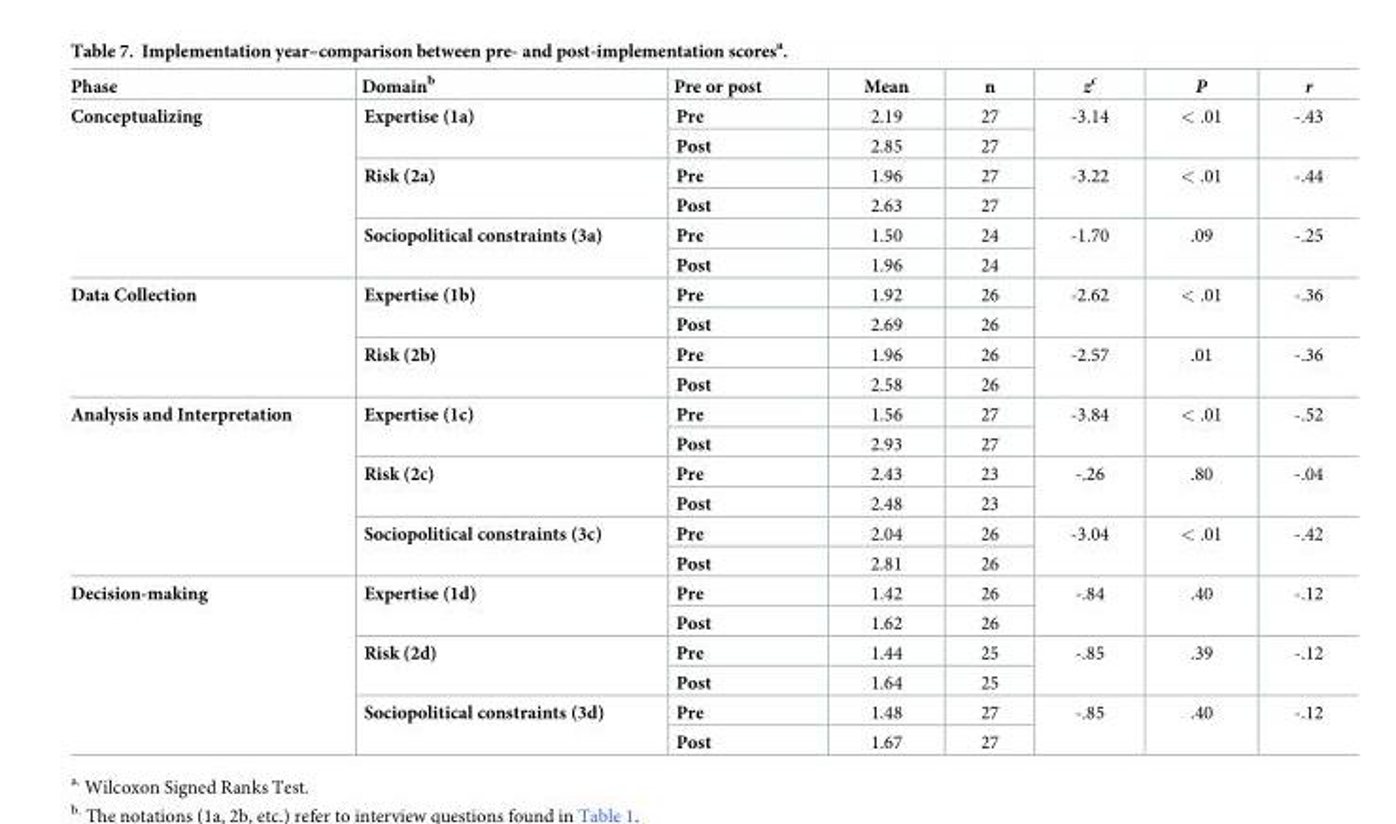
<table><thead><tr><td>Phase</td><td>Domain<sup>b</sup></td><td>Pre or post</td><td>Mean</td><td>n</td><td>z<sup>c</sup></td><td>P</td><td>r</td></tr></thead><tbody><tr><td rowspan="6">Conceptualizing</td><td rowspan="2">Expertise (1a)</td><td>Pre</td><td>2.19</td><td>27</td><td rowspan="2">-3.14</td><td rowspan="2">&lt; .01</td><td rowspan="2">-.43</td></tr><tr><td>Post</td><td>2.85</td><td>27</td></tr><tr><td rowspan="2">Risk (2a)</td><td>Pre</td><td>1.96</td><td>27</td><td rowspan="2">-3.22</td><td rowspan="2">&lt; .01</td><td rowspan="2">-.44</td></tr><tr><td>Post</td><td>2.63</td><td>27</td></tr><tr><td rowspan="2">Sociopolitical constraints (3a)</td><td>Pre</td><td>1.50</td><td>24</td><td rowspan="2">-1.70</td><td rowspan="2">.09</td><td rowspan="2">-.25</td></tr><tr><td>Post</td><td>1.96</td><td>24</td></tr><tr><td rowspan="4">Data Collection</td><td rowspan="2">Expertise (1b)</td><td>Pre</td><td>1.92</td><td>26</td><td rowspan="2">-2.62</td><td rowspan="2">&lt; .01</td><td rowspan="2">-.36</td></tr><tr><td>Post</td><td>2.69</td><td>26</td></tr><tr><td rowspan="2">Risk (2b)</td><td>Pre</td><td>1.96</td><td>26</td><td rowspan="2">-2.57</td><td rowspan="2">.01</td><td rowspan="2">-.36</td></tr><tr><td>Post</td><td>2.58</td><td>26</td></tr><tr><td rowspan="6">Analysis and Interpretation</td><td rowspan="2">Expertise (1c)</td><td>Pre</td><td>1.56</td><td>27</td><td rowspan="2">-3.84</td><td rowspan="2">&lt; .01</td><td rowspan="2">-.52</td></tr><tr><td>Post</td><td>2.93</td><td>27</td></tr><tr><td rowspan="2">Risk (2c)</td><td>Pre</td><td>2.43</td><td>23</td><td rowspan="2">-.26</td><td rowspan="2">.80</td><td rowspan="2">-.04</td></tr><tr><td>Post</td><td>2.48</td><td>23</td></tr><tr><td rowspan="2">Sociopolitical constraints (3c)</td><td>Pre</td><td>2.04</td><td>26</td><td rowspan="2">-3.04</td><td rowspan="2">&lt; .01</td><td rowspan="2">-.42</td></tr><tr><td>Post</td><td>2.81</td><td>26</td></tr><tr><td rowspan="6">Decision-making</td><td rowspan="2">Expertise (1d)</td><td>Pre</td><td>1.42</td><td>26</td><td rowspan="2">-.84</td><td rowspan="2">.40</td><td rowspan="2">-.12</td></tr><tr><td>Post</td><td>1.62</td><td>26</td></tr><tr><td rowspan="2">Risk (2d)</td><td>Pre</td><td>1.44</td><td>25</td><td rowspan="2">-.85</td><td rowspan="2">.39</td><td rowspan="2">-.12</td></tr><tr><td>Post</td><td>1.64</td><td>25</td></tr><tr><td rowspan="2">Sociopolitical constraints (3d)</td><td>Pre</td><td>1.48</td><td>27</td><td rowspan="2">-.85</td><td rowspan="2">.40</td><td rowspan="2">-.12</td></tr><tr><td>Post</td><td>1.67</td><td>27</td></tr></tbody></table>